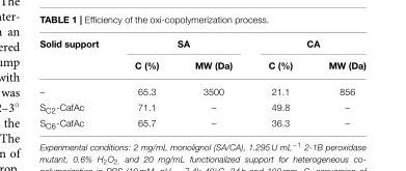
<table><thead><tr><td rowspan="2">Solid support</td><td colspan="2">SA</td><td colspan="2">CA</td></tr><tr><td>C (%)</td><td>MW (Da)</td><td>C (%)</td><td>MW (Da)</td></tr></thead><tbody><tr><td>–</td><td>65.3</td><td>3500</td><td>21.1</td><td>856</td></tr><tr><td>S<sub>C2</sub>-CafAc</td><td>71.1</td><td>–</td><td>49.8</td><td>–</td></tr><tr><td>S<sub>C6</sub>-CafAc</td><td>65.7</td><td>–</td><td>36.3</td><td>–</td></tr></tbody></table>